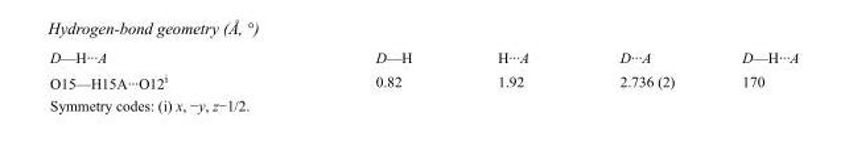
<table><tbody><tr><td>D—H···A</td><td>D—H</td><td>H···A</td><td>D···A</td><td>D—H···A</td></tr><tr><td>O15—H15A···O12<sup>i</sup></td><td>0.82</td><td>1.92</td><td>2.736 (2)</td><td>170</td></tr></tbody></table>